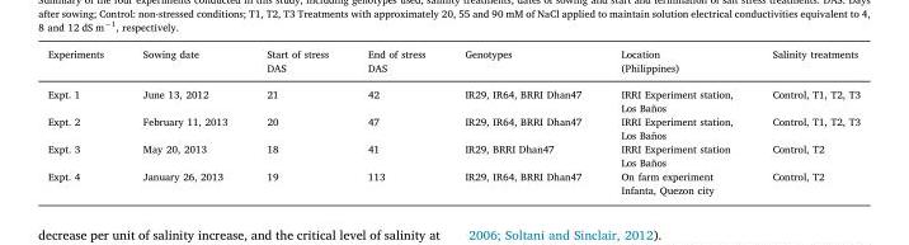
<table><thead><tr><td>Experiments</td><td>Sowing date</td><td>Start of stress DAS</td><td>End of stress DAS</td><td>Genotypes</td><td>Location (Philippines)</td><td>Salinity treatments</td></tr></thead><tbody><tr><td>Expt. 1</td><td>June 13, 2012</td><td>21</td><td>42</td><td>IR29, IR64, BRRI Dhan47</td><td>IRRI Experiment station, Los Baños</td><td>Control, T1, T2, T3</td></tr><tr><td>Expt. 2</td><td>February 11, 2013</td><td>20</td><td>47</td><td>IR29, IR64, BRRI Dhan47</td><td>IRRI Experiment station, Los Baños</td><td>Control, T1, T2, T3</td></tr><tr><td>Expt. 3</td><td>May 20, 2013</td><td>18</td><td>41</td><td>IR29, BRRI Dhan47</td><td>IRRI Experiment station Los Baños</td><td>Control, T2</td></tr><tr><td>Expt. 4</td><td>January 26, 2013</td><td>19</td><td>113</td><td>IR29, IR64, BRRI Dhan47</td><td>On farm experiment Infanta, Quezon city</td><td>Control, T2</td></tr></tbody></table>